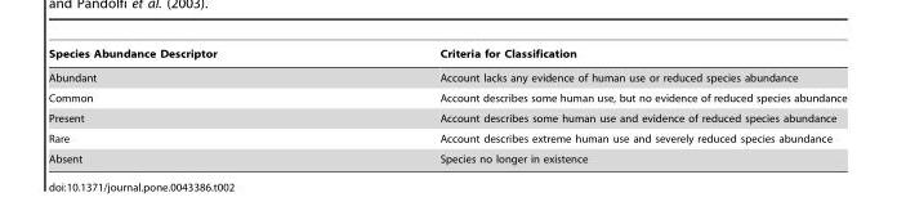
<table><thead><tr><td>Species Abundance Descriptor</td><td>Criteria for Classification</td></tr></thead><tbody><tr><td>Abundant</td><td>Account lacks any evidence of human use or reduced species abundance</td></tr><tr><td>Common</td><td>Account describes some human use, but no evidence of reduced species abundance</td></tr><tr><td>Present</td><td>Account describes some human use and evidence of reduced species abundance</td></tr><tr><td>Rare</td><td>Account describes extreme human use and severely reduced species abundance</td></tr><tr><td>Absent</td><td>Species no longer in existence</td></tr></tbody></table>